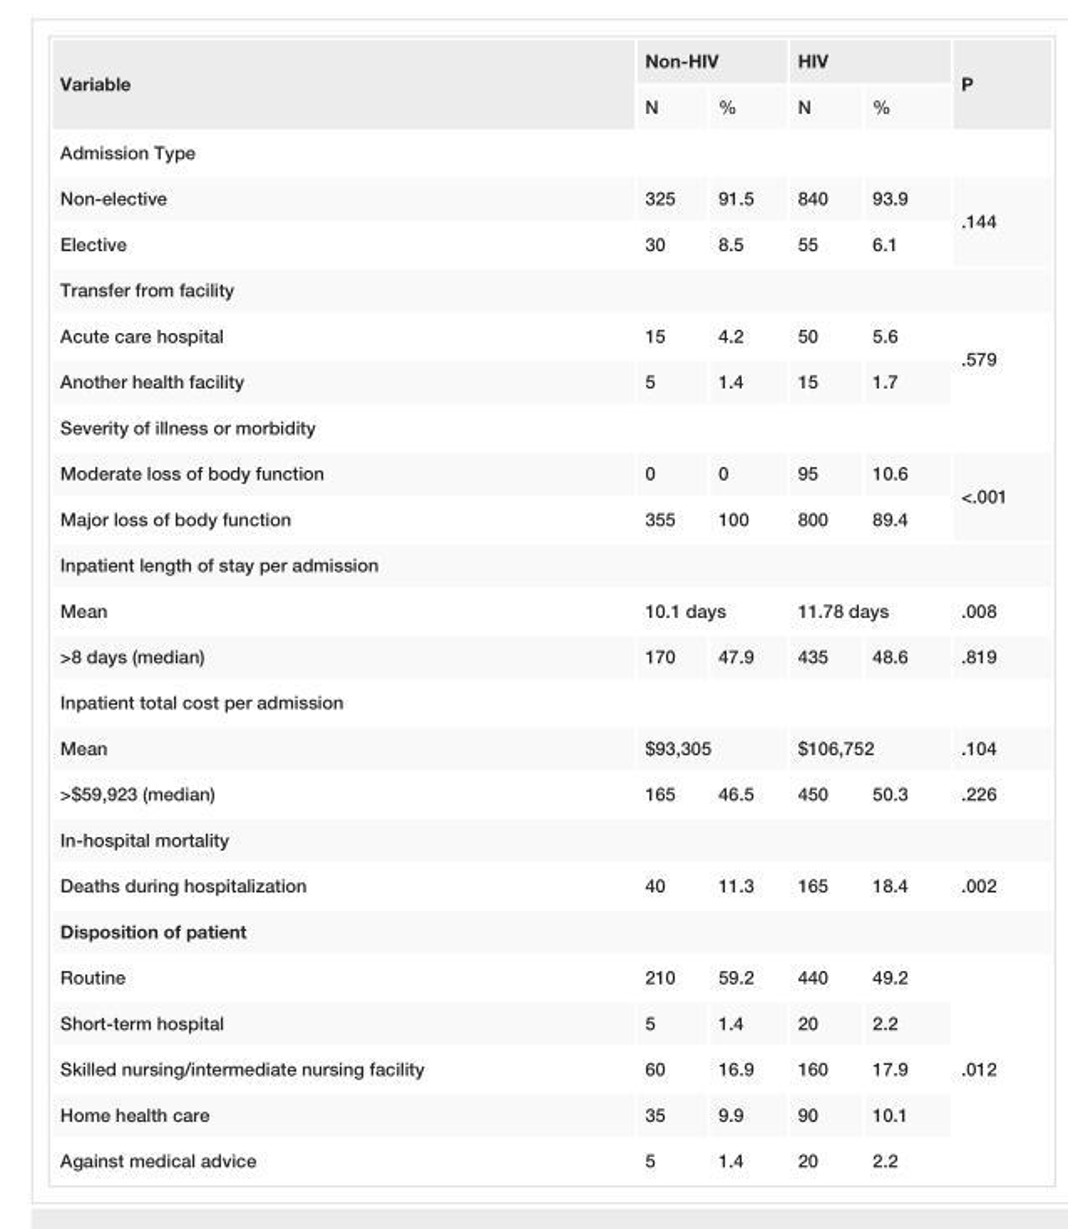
<table><tbody><tr><td rowspan="2">Variable</td><td colspan="2">Non-HIV</td><td colspan="2">HIV</td><td rowspan="2">P</td></tr><tr><td>N</td><td>%</td><td>N</td><td>%</td></tr><tr><td colspan="6">Admission Type</td></tr><tr><td>Non-elective</td><td>325</td><td>91.5</td><td>840</td><td>93.9</td><td rowspan="2">.144</td></tr><tr><td>Elective</td><td>30</td><td>8.5</td><td>55</td><td>6.1</td></tr><tr><td colspan="6">Transfer from facility</td></tr><tr><td>Acute care hospital</td><td>15</td><td>4.2</td><td>50</td><td>5.6</td><td rowspan="2">.579</td></tr><tr><td>Another health facility</td><td>5</td><td>1.4</td><td>15</td><td>1.7</td></tr><tr><td colspan="6">Severity of illness or morbidity</td></tr><tr><td>Moderate loss of body function</td><td>0</td><td>0</td><td>95</td><td>10.6</td><td rowspan="2">&lt;.001</td></tr><tr><td>Major loss of body function</td><td>355</td><td>100</td><td>800</td><td>89.4</td></tr><tr><td colspan="6">Inpatient length of stay per admission</td></tr><tr><td>Mean</td><td colspan="2">10.1 days</td><td colspan="2">11.78 days</td><td>.008</td></tr><tr><td>&gt;8 days (median)</td><td>170</td><td>47.9</td><td>435</td><td>48.6</td><td>.819</td></tr><tr><td colspan="6">Inpatient total cost per admission</td></tr><tr><td>Mean</td><td colspan="2">$93,305</td><td colspan="2">$106,752</td><td>.104</td></tr><tr><td>&gt;$59,923 (median)</td><td>165</td><td>46.5</td><td>450</td><td>50.3</td><td>.226</td></tr><tr><td colspan="6">In-hospital mortality</td></tr><tr><td>Deaths during hospitalization</td><td>40</td><td>11.3</td><td>165</td><td>18.4</td><td>.002</td></tr><tr><td colspan="6">Disposition of patient</td></tr><tr><td>Routine</td><td>210</td><td>59.2</td><td>440</td><td>49.2</td><td rowspan="5">.012</td></tr><tr><td>Short-term hospital</td><td>5</td><td>1.4</td><td>20</td><td>2.2</td></tr><tr><td>Skilled nursing/intermediate nursing facility</td><td>60</td><td>16.9</td><td>160</td><td>17.9</td></tr><tr><td>Home health care</td><td>35</td><td>9.9</td><td>90</td><td>10.1</td></tr><tr><td>Against medical advice</td><td>5</td><td>1.4</td><td>20</td><td>2.2</td></tr></tbody></table>